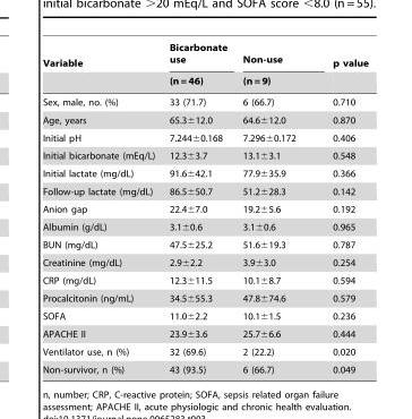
<table><thead><tr><td rowspan="2">Variable</td><td rowspan="2">Bicarbonate use (n = 46)</td><td rowspan="2">Non-use (n = 9)</td><td rowspan="2">p value</td></tr><tr></tr></thead><tbody><tr><td>Sex, male, no. (%)</td><td>33 (71.7)</td><td>6 (66.7)</td><td>0.710</td></tr><tr><td>Age, years</td><td>65.3±12.0</td><td>64.6±12.0</td><td>0.870</td></tr><tr><td>Initial pH</td><td>7.244±0.168</td><td>7.296±0.172</td><td>0.406</td></tr><tr><td>Initial bicarbonate (mEq/L)</td><td>12.3±3.7</td><td>13.1±3.1</td><td>0.548</td></tr><tr><td>Initial lactate (mg/dL)</td><td>91.6±42.1</td><td>77.9±35.9</td><td>0.366</td></tr><tr><td>Follow-up lactate (mg/dL)</td><td>86.5±50.7</td><td>51.2±28.3</td><td>0.142</td></tr><tr><td>Anion gap</td><td>22.4±7.0</td><td>19.2±5.6</td><td>0.192</td></tr><tr><td>Albumin (g/dL)</td><td>3.1±0.6</td><td>3.1±0.6</td><td>0.965</td></tr><tr><td>BUN (mg/dL)</td><td>47.5±25.2</td><td>51.6±19.3</td><td>0.787</td></tr><tr><td>Creatinine (mg/dL)</td><td>2.9±2.2</td><td>3.9±3.0</td><td>0.254</td></tr><tr><td>CRP (mg/dL)</td><td>12.3±11.5</td><td>10.1±8.7</td><td>0.594</td></tr><tr><td>Procalcitonin (ng/mL)</td><td>34.5±55.3</td><td>47.8±74.6</td><td>0.579</td></tr><tr><td>SOFA</td><td>11.0±2.2</td><td>10.1±1.5</td><td>0.236</td></tr><tr><td>APACHE II</td><td>23.9±3.6</td><td>25.7±6.6</td><td>0.444</td></tr><tr><td>Ventilator use, n (%)</td><td>32 (69.6)</td><td>2 (22.2)</td><td>0.020</td></tr><tr><td>Non-survivor, n (%)</td><td>43 (93.5)</td><td>6 (66.7)</td><td>0.049</td></tr></tbody></table>